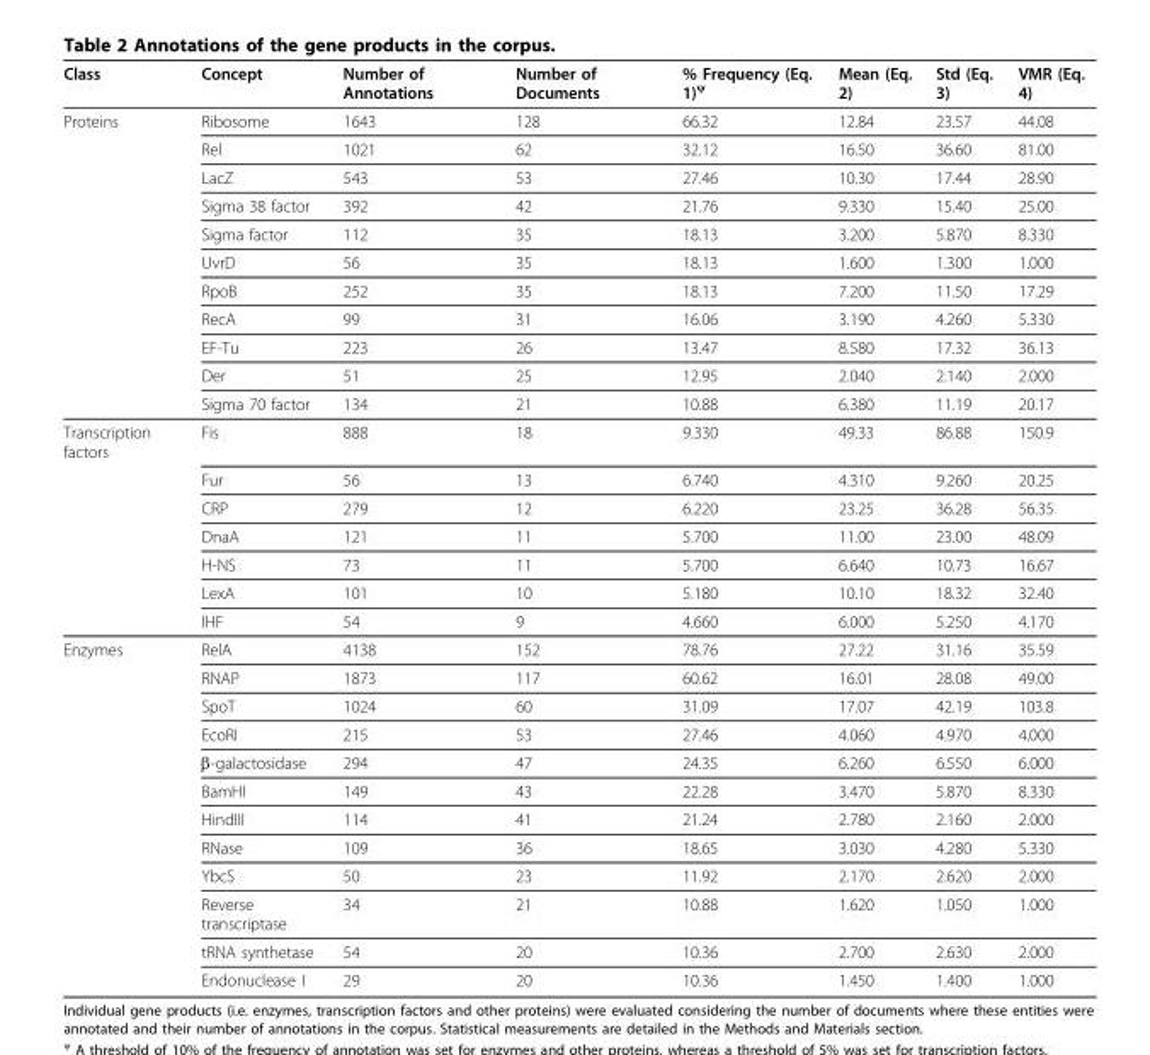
<table><thead><tr><td>Class</td><td>Concept</td><td>Number of Annotations</td><td>Number of Documents</td><td>% Frequency (Eq. 1)<sup>ψ</sup></td><td>Mean (Eq. 2)</td><td>Std (Eq. 3)</td><td>VMR (Eq. 4)</td></tr></thead><tbody><tr><td rowspan="11">Proteins</td><td>Ribosome</td><td>1643</td><td>128</td><td>66.32</td><td>12.84</td><td>23.57</td><td>44.08</td></tr><tr><td>Rel</td><td>1021</td><td>62</td><td>32.12</td><td>16.50</td><td>36.60</td><td>81.00</td></tr><tr><td>LacZ</td><td>543</td><td>53</td><td>27.46</td><td>10.30</td><td>17.44</td><td>28.90</td></tr><tr><td>Sigma 38 factor</td><td>392</td><td>42</td><td>21.76</td><td>9.330</td><td>15.40</td><td>25.00</td></tr><tr><td>Sigma factor</td><td>112</td><td>35</td><td>18.13</td><td>3.200</td><td>5.870</td><td>8.330</td></tr><tr><td>UvrD</td><td>56</td><td>35</td><td>18.13</td><td>1.600</td><td>1.300</td><td>1.000</td></tr><tr><td>RpoB</td><td>252</td><td>35</td><td>18.13</td><td>7.200</td><td>11.50</td><td>17.29</td></tr><tr><td>RecA</td><td>99</td><td>31</td><td>16.06</td><td>3.190</td><td>4.260</td><td>5.330</td></tr><tr><td>EF-Tu</td><td>223</td><td>26</td><td>13.47</td><td>8.580</td><td>17.32</td><td>36.13</td></tr><tr><td>Der</td><td>51</td><td>25</td><td>12.95</td><td>2.040</td><td>2.140</td><td>2.000</td></tr><tr><td>Sigma 70 factor</td><td>134</td><td>21</td><td>10.88</td><td>6.380</td><td>11.19</td><td>20.17</td></tr><tr><td rowspan="7">Transcription factors</td><td>Fis</td><td>888</td><td>18</td><td>9.330</td><td>49.33</td><td>86.88</td><td>150.9</td></tr><tr><td>Fur</td><td>56</td><td>13</td><td>6.740</td><td>4.310</td><td>9.260</td><td>20.25</td></tr><tr><td>CRP</td><td>279</td><td>12</td><td>6.220</td><td>23.25</td><td>36.28</td><td>56.35</td></tr><tr><td>DnaA</td><td>121</td><td>11</td><td>5.700</td><td>11.00</td><td>23.00</td><td>48.09</td></tr><tr><td>H-NS</td><td>73</td><td>11</td><td>5.700</td><td>6.640</td><td>10.73</td><td>16.67</td></tr><tr><td>LexA</td><td>101</td><td>10</td><td>5.180</td><td>10.10</td><td>18.32</td><td>32.40</td></tr><tr><td>IHF</td><td>54</td><td>9</td><td>4.660</td><td>6.000</td><td>5.250</td><td>4.170</td></tr><tr><td rowspan="12">Enzymes</td><td>RelA</td><td>4138</td><td>152</td><td>78.76</td><td>27.22</td><td>31.16</td><td>35.59</td></tr><tr><td>RNAP</td><td>1873</td><td>117</td><td>60.62</td><td>16.01</td><td>28.08</td><td>49.00</td></tr><tr><td>SpoT</td><td>1024</td><td>60</td><td>31.09</td><td>17.07</td><td>42.19</td><td>103.8</td></tr><tr><td>EcoRI</td><td>215</td><td>53</td><td>27.46</td><td>4.060</td><td>4.970</td><td>4.000</td></tr><tr><td>β-galactosidase</td><td>294</td><td>47</td><td>24.35</td><td>6.260</td><td>6.550</td><td>6.000</td></tr><tr><td>BamHI</td><td>149</td><td>43</td><td>22.28</td><td>3.470</td><td>5.870</td><td>8.330</td></tr><tr><td>HindIII</td><td>114</td><td>41</td><td>21.24</td><td>2.780</td><td>2.160</td><td>2.000</td></tr><tr><td>RNase</td><td>109</td><td>36</td><td>18.65</td><td>3.030</td><td>4.280</td><td>5.330</td></tr><tr><td>YbcS</td><td>50</td><td>23</td><td>11.92</td><td>2.170</td><td>2.620</td><td>2.000</td></tr><tr><td>Reverse transcriptase</td><td>34</td><td>21</td><td>10.88</td><td>1.620</td><td>1.050</td><td>1.000</td></tr><tr><td>tRNA synthetase</td><td>54</td><td>20</td><td>10.36</td><td>2.700</td><td>2.630</td><td>2.000</td></tr><tr><td>Endonuclease I</td><td>29</td><td>20</td><td>10.36</td><td>1.450</td><td>1.400</td><td>1.000</td></tr></tbody></table>